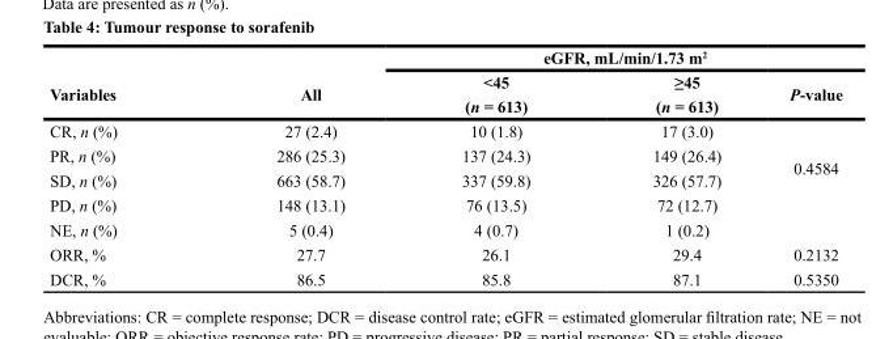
<table><thead><tr><td rowspan="3">Variables</td><td rowspan="3">All</td><td colspan="3">eGFR, mL/min/1.73 m<sup>2</sup></td></tr><tr><td rowspan="2">&lt;45 (n = 613)</td><td rowspan="2">≥45 (n = 613)</td><td rowspan="2">P-value</td></tr><tr></tr></thead><tbody><tr><td>CR, n (%)</td><td>27 (2.4)</td><td>10 (1.8)</td><td>17 (3.0)</td><td rowspan="4">0.4584</td></tr><tr><td>PR, n (%)</td><td>286 (25.3)</td><td>137 (24.3)</td><td>149 (26.4)</td></tr><tr><td>SD, n (%)</td><td>663 (58.7)</td><td>337 (59.8)</td><td>326 (57.7)</td></tr><tr><td>PD, n (%)</td><td>148 (13.1)</td><td>76 (13.5)</td><td>72 (12.7)</td></tr><tr><td>NE, n (%)</td><td>5 (0.4)</td><td>4 (0.7)</td><td>1 (0.2)</td><td></td></tr><tr><td>ORR, %</td><td>27.7</td><td>26.1</td><td>29.4</td><td>0.2132</td></tr><tr><td>DCR, %</td><td>86.5</td><td>85.8</td><td>87.1</td><td>0.5350</td></tr></tbody></table>